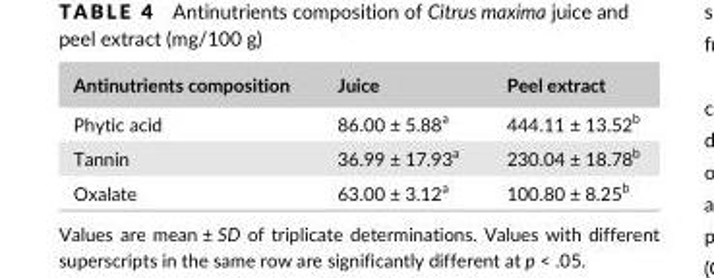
<table><thead><tr><td>Antinutrients composition</td><td>Juice</td><td>Peel extract</td></tr></thead><tbody><tr><td>Phytic acid</td><td>86.00 ± 5.88<sup>a</sup></td><td>444.11 ± 13.52<sup>b</sup></td></tr><tr><td>Tannin</td><td>36.99 ± 17.93<sup>a</sup></td><td>230.04 ± 18.78<sup>b</sup></td></tr><tr><td>Oxalate</td><td>63.00 ± 3.12<sup>a</sup></td><td>100.80 ± 8.25<sup>b</sup></td></tr></tbody></table>